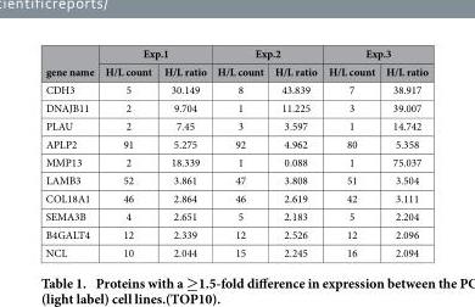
<table><thead><tr><td rowspan="2">gene name</td><td colspan="2">Exp.1</td><td colspan="2">Exp.2</td><td colspan="2">Exp.3</td></tr><tr><td>H/L count</td><td>H/L ratio</td><td>H/L count</td><td>H/L ratio</td><td>H/L count</td><td>H/L ratio</td></tr></thead><tbody><tr><td>CDH3</td><td>5</td><td>30.149</td><td>8</td><td>43.839</td><td>7</td><td>38.917</td></tr><tr><td>DNAJB11</td><td>2</td><td>9.704</td><td>1</td><td>11.225</td><td>3</td><td>39.007</td></tr><tr><td>PLAU</td><td>2</td><td>7.45</td><td>3</td><td>3.597</td><td>1</td><td>14.742</td></tr><tr><td>APLP2</td><td>91</td><td>5.275</td><td>92</td><td>4.962</td><td>80</td><td>5.358</td></tr><tr><td>MMP13</td><td>2</td><td>18.339</td><td>1</td><td>0.088</td><td>1</td><td>75.037</td></tr><tr><td>LAMB3</td><td>52</td><td>3.861</td><td>47</td><td>3.808</td><td>51</td><td>3.504</td></tr><tr><td>COL18A1</td><td>46</td><td>2.864</td><td>46</td><td>2.619</td><td>42</td><td>3.111</td></tr><tr><td>SEMA3B</td><td>4</td><td>2.651</td><td>5</td><td>2.183</td><td>5</td><td>2.204</td></tr><tr><td>B4GALT4</td><td>12</td><td>2.339</td><td>12</td><td>2.526</td><td>12</td><td>2.096</td></tr><tr><td>NCL</td><td>10</td><td>2.044</td><td>15</td><td>2.245</td><td>16</td><td>2.094</td></tr></tbody></table>